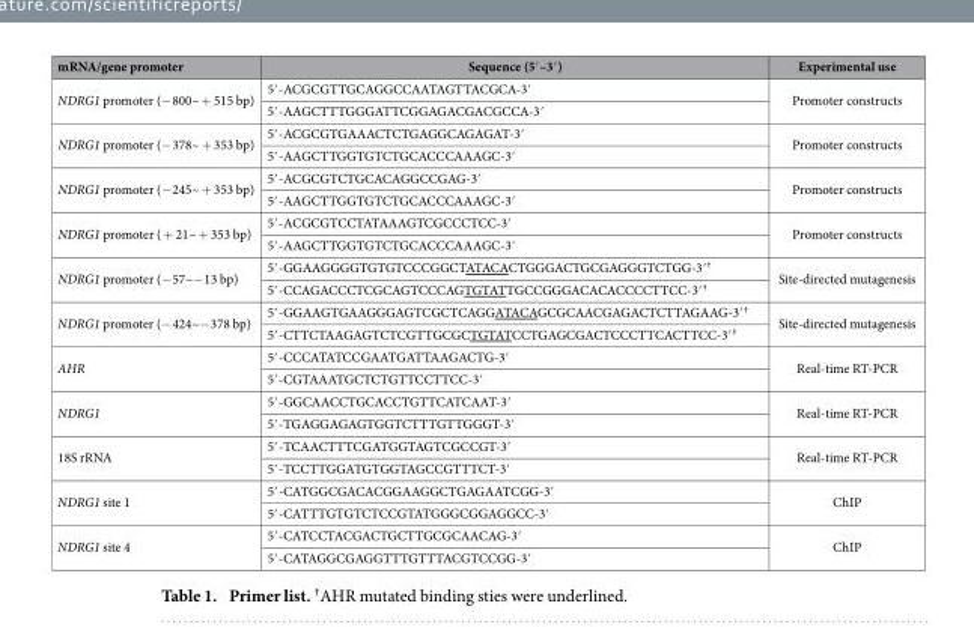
<table><thead><tr><td>mRNA/gene promoter</td><td>Sequence (5′ –3′ )</td><td>Experimental use</td></tr></thead><tbody><tr><td rowspan="2">NDRG1 promoter (− 800~ + 515 bp)</td><td>5′ -ACGCGTTGCAGGCCAATAGTTACGCA-3′</td><td rowspan="2">Promoter constructs</td></tr><tr><td>5′ -AAGCTTTGGGATTCGGAGACGACGCCA-3′</td></tr><tr><td rowspan="2">NDRG1 promoter (− 378~ + 353 bp)</td><td>5′ -ACGCGTGAAACTCTGAGGCAGAGAT-3′</td><td rowspan="2">Promoter constructs</td></tr><tr><td>5′ -AAGCTTGGTGTCTGCACCCAAAGC-3′</td></tr><tr><td rowspan="2">NDRG1 promoter (− 245~ + 353 bp)</td><td>5′ -ACGCGTCTGCACAGGCCGAG-3′</td><td rowspan="2">Promoter constructs</td></tr><tr><td>5′ -AAGCTTGGTGTCTGCACCCAAAGC-3′</td></tr><tr><td rowspan="2">NDRG1 promoter ( + 21~ + 353 bp)</td><td>5′ -ACGCGTCCTATAAAGTCGCCCTCC-3′</td><td rowspan="2">Promoter constructs</td></tr><tr><td>5′ -AAGCTTGGTGTCTGCACCCAAAGC-3′</td></tr><tr><td rowspan="2">NDRG1 promoter (− 57~− 13 bp)</td><td>5′ -GGAAGGGGTGTGTCCCGGCTATACACTGGGACTGCGAGGGTCTGG-3′ †</td><td rowspan="2">Site-directed mutagenesis</td></tr><tr><td>5′ -CCAGACCCTCGCAGTCCCAGTGTATTGCCGGGACACACCCCTTCC-3′ †</td></tr><tr><td rowspan="2">NDRG1 promoter (− 424~− 378 bp)</td><td>5′ -GGAAGTGAAGGGAGTCGCTCAGGATACAGCGCAACGAGACTCTTAGAAG-3′ †</td><td rowspan="2">Site-directed mutagenesis</td></tr><tr><td>5′ -CTTCTAAGAGTCTCGTTGCGCTGTATCCTGAGCGACTCCCTTCACTTCC-3′ †</td></tr><tr><td rowspan="2">AHR</td><td>5′ -CCCATATCCGAATGATTAAGACTG-3′</td><td rowspan="2">Real-time RT-PCR</td></tr><tr><td>5′ -CGTAAATGCTCTGTTCCTTCC-3′</td></tr><tr><td rowspan="2">NDRG1</td><td>5′ -GGCAACCTGCACCTGTTCATCAAT-3′</td><td rowspan="2">Real-time RT-PCR</td></tr><tr><td>5′ -TGAGGAGAGTGGTCTTTGTTGGGT-3′</td></tr><tr><td rowspan="2">18S rRNA</td><td>5′ -TCAACTTTCGATGGTAGTCGCCGT-3′</td><td rowspan="2">Real-time RT-PCR</td></tr><tr><td>5′ -TCCTTGGATGTGGTAGCCGTTTCT-3′</td></tr><tr><td rowspan="2">NDRG1 site 1</td><td>5′ -CATGGCGACACGGAAGGCTGAGAATCGG-3′</td><td rowspan="2">ChIP</td></tr><tr><td>5′ -CATTTGTGTCTCCGTATGGGCGGAGGCC-3′</td></tr><tr><td rowspan="2">NDRG1 site 4</td><td>5′ -CATCCTACGACTGCTTGCGCAACAG-3′</td><td rowspan="2">ChIP</td></tr><tr><td>5′ -CATAGGCGAGGTTTGTTTACGTCCGG-3′</td></tr></tbody></table>